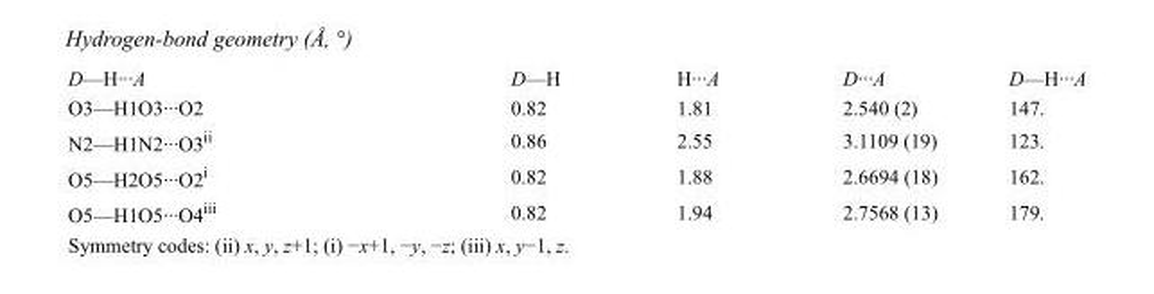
<table><tbody><tr><td>D—H···A</td><td>D—H</td><td>H···A</td><td>D···A</td><td>D—H···A</td></tr><tr><td>O3—H1O3···O2</td><td>0.82</td><td>1.81</td><td>2.540 (2)</td><td>147.</td></tr><tr><td>N2—H1N2···O3<sup>ii</sup></td><td>0.86</td><td>2.55</td><td>3.1109 (19)</td><td>123.</td></tr><tr><td>O5—H2O5···O2<sup>i</sup></td><td>0.82</td><td>1.88</td><td>2.6694 (18)</td><td>162.</td></tr><tr><td>O5—H1O5···O4<sup>iii</sup></td><td>0.82</td><td>1.94</td><td>2.7568 (13)</td><td>179.</td></tr></tbody></table>